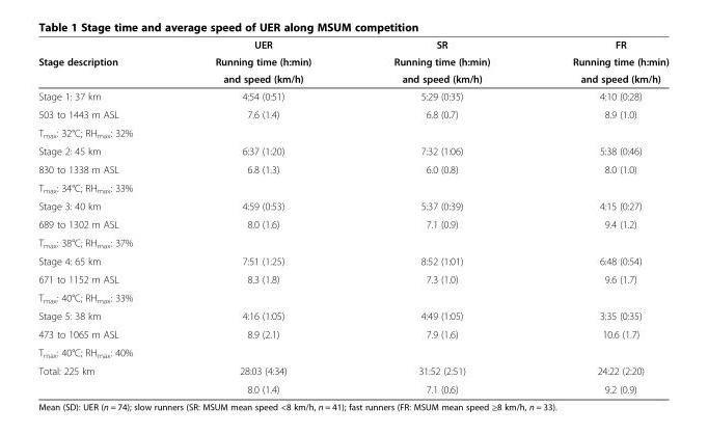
<table><thead><tr><td rowspan="3">Stage description</td><td rowspan="3">UER Running time (h:min) and speed (km/h)</td><td rowspan="3">SR Running time (h:min) and speed (km/h)</td><td rowspan="3">FR Running time (h:min) and speed (km/h)</td></tr><tr></tr><tr></tr></thead><tbody><tr><td>Stage 1: 37 km</td><td>4:54 (0:51)</td><td>5:29 (0:35)</td><td>4:10 (0:28)</td></tr><tr><td>503 to 1443 m ASL</td><td>7.6 (1.4)</td><td>6.8 (0.7)</td><td>8.9 (1.0)</td></tr><tr><td colspan="4">T<sub>max</sub>: 32°C; RH<sub>max</sub>: 32%</td></tr><tr><td>Stage 2: 45 km</td><td>6:37 (1:20)</td><td>7:32 (1:06)</td><td>5:38 (0:46)</td></tr><tr><td>830 to 1338 m ASL</td><td>6.8 (1.3)</td><td>6.0 (0.8)</td><td>8.0 (1.0)</td></tr><tr><td colspan="4">T<sub>max</sub>: 34°C; RH<sub>max</sub>: 33%</td></tr><tr><td>Stage 3: 40 km</td><td>4:59 (0:53)</td><td>5:37 (0:39)</td><td>4:15 (0:27)</td></tr><tr><td>689 to 1302 m ASL</td><td>8.0 (1.6)</td><td>7.1 (0.9)</td><td>9.4 (1.2)</td></tr><tr><td colspan="4">T<sub>max</sub>: 38°C; RH<sub>max</sub>: 37%</td></tr><tr><td>Stage 4: 65 km</td><td>7:51 (1:25)</td><td>8:52 (1:01)</td><td>6:48 (0:54)</td></tr><tr><td>671 to 1152 m ASL</td><td>8.3 (1.8)</td><td>7.3 (1.0)</td><td>9.6 (1.7)</td></tr><tr><td colspan="4">T<sub>max</sub>: 40°C; RH<sub>max</sub>: 33%</td></tr><tr><td>Stage 5: 38 km</td><td>4:16 (1:05)</td><td>4:49 (1:05)</td><td>3:35 (0:35)</td></tr><tr><td>473 to 1065 m ASL</td><td>8.9 (2.1)</td><td>7.9 (1.6)</td><td>10.6 (1.7)</td></tr><tr><td colspan="4">T<sub>max</sub>: 40°C; RH<sub>max</sub>: 40%</td></tr><tr><td rowspan="2">Total: 225 km</td><td>28:03 (4:34)</td><td>31:52 (2:51)</td><td>24:22 (2:20)</td></tr><tr><td>8.0 (1.4)</td><td>7.1 (0.6)</td><td>9.2 (0.9)</td></tr></tbody></table>